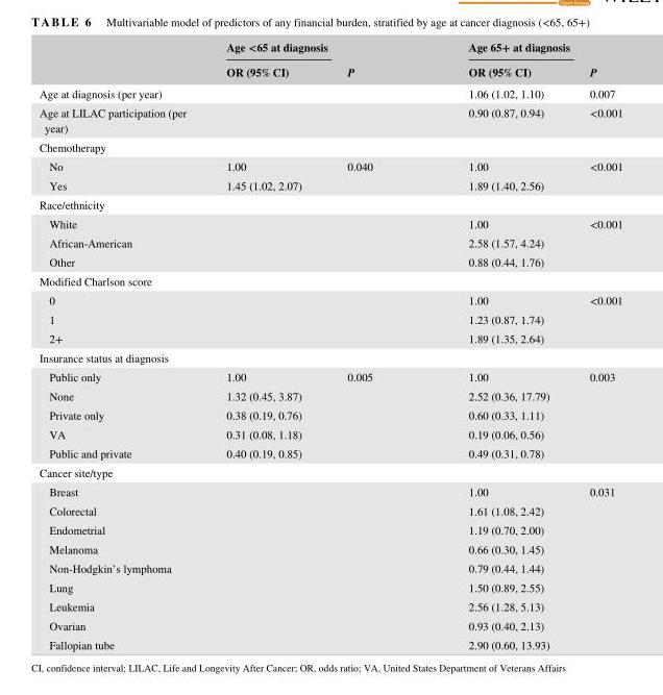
<table><thead><tr><td rowspan="2"></td><td rowspan="2">Age &lt;65 at diagnosis OR (95% CI)</td><td rowspan="2">P</td><td rowspan="2">Age 65+ at diagnosis OR (95% CI)</td><td rowspan="2">P</td></tr><tr></tr></thead><tbody><tr><td>Age at diagnosis (per year)</td><td></td><td></td><td>1.06 (1.02, 1.10)</td><td>0.007</td></tr><tr><td>Age at LILAC participation (per year)</td><td></td><td></td><td>0.90 (0.87, 0.94)</td><td>&lt;0.001</td></tr><tr><td colspan="5">Chemotherapy</td></tr><tr><td>No</td><td>1.00</td><td>0.040</td><td>1.00</td><td>&lt;0.001</td></tr><tr><td>Yes</td><td>1.45 (1.02, 2.07)</td><td></td><td>1.89 (1.40, 2.56)</td><td></td></tr><tr><td colspan="5">Race/ethnicity</td></tr><tr><td>White</td><td></td><td></td><td>1.00</td><td>&lt;0.001</td></tr><tr><td>African- American</td><td></td><td></td><td>2.58 (1.57, 4.24)</td><td></td></tr><tr><td>Other</td><td></td><td></td><td>0.88 (0.44, 1.76)</td><td></td></tr><tr><td colspan="5">Modified Charlson score</td></tr><tr><td>0</td><td></td><td></td><td>1.00</td><td>&lt;0.001</td></tr><tr><td>1</td><td></td><td></td><td>1.23 (0.87, 1.74)</td><td></td></tr><tr><td>2+</td><td></td><td></td><td>1.89 (1.35, 2.64)</td><td></td></tr><tr><td colspan="5">Insurance status at diagnosis</td></tr><tr><td>Public only</td><td>1.00</td><td>0.005</td><td>1.00</td><td>0.003</td></tr><tr><td>None</td><td>1.32 (0.45, 3.87)</td><td></td><td>2.52 (0.36, 17.79)</td><td></td></tr><tr><td>Private only</td><td>0.38 (0.19, 0.76)</td><td></td><td>0.60 (0.33, 1.11)</td><td></td></tr><tr><td>VA</td><td>0.31 (0.08, 1.18)</td><td></td><td>0.19 (0.06, 0.56)</td><td></td></tr><tr><td>Public and private</td><td>0.40 (0.19, 0.85)</td><td></td><td>0.49 (0.31, 0.78)</td><td></td></tr><tr><td colspan="5">Cancer site/type</td></tr><tr><td>Breast</td><td></td><td></td><td>1.00</td><td>0.031</td></tr><tr><td>Colorectal</td><td></td><td></td><td>1.61 (1.08, 2.42)</td><td></td></tr><tr><td>Endometrial</td><td></td><td></td><td>1.19 (0.70, 2.00)</td><td></td></tr><tr><td>Melanoma</td><td></td><td></td><td>0.66 (0.30, 1.45)</td><td></td></tr><tr><td>Non- Hodgkin’s lymphoma</td><td></td><td></td><td>0.79 (0.44, 1.44)</td><td></td></tr><tr><td>Lung</td><td></td><td></td><td>1.50 (0.89, 2.55)</td><td></td></tr><tr><td>Leukemia</td><td></td><td></td><td>2.56 (1.28, 5.13)</td><td></td></tr><tr><td>Ovarian</td><td></td><td></td><td>0.93 (0.40, 2.13)</td><td></td></tr><tr><td>Fallopian tube</td><td></td><td></td><td>2.90 (0.60, 13.93)</td><td></td></tr></tbody></table>